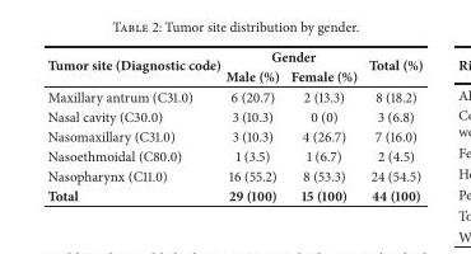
<table><thead><tr><td rowspan="2">Tumor site (Diagnostic code)</td><td colspan="2">Gender</td><td rowspan="2">Total (%)</td></tr><tr><td>Male (%)</td><td>Female (%)</td></tr></thead><tbody><tr><td>Maxillary antrum (C31.0)</td><td>6 (20.7)</td><td>2 (13.3)</td><td>8 (18.2)</td></tr><tr><td>Nasal cavity (C30.0)</td><td>3 (10.3)</td><td>0 (0)</td><td>3 (6.8)</td></tr><tr><td>Nasomaxillary (C31.0)</td><td>3 (10.3)</td><td>4 (26.7)</td><td>7 (16.0)</td></tr><tr><td>Nasoethmoidal (C80.0)</td><td>1 (3.5)</td><td>1 (6.7)</td><td>2 (4.5)</td></tr><tr><td>Nasopharynx (C11.0)</td><td>16 (55.2)</td><td>8 (53.3)</td><td>24 (54.5)</td></tr><tr><td>Total</td><td>29 (100)</td><td>15 (100)</td><td>44 (100)</td></tr></tbody></table>